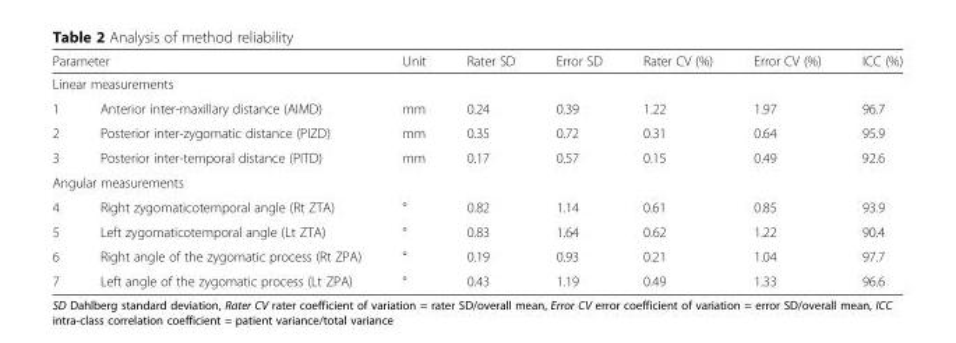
<table><thead><tr><td colspan="2">Parameter</td><td>Unit</td><td>Rater SD</td><td>Error SD</td><td>Rater CV (%)</td><td>Error CV (%)</td><td>ICC (%)</td></tr><tr><td colspan="8">Linear measurements</td></tr><tr><td>1</td><td>Anterior inter-maxillary distance (AIMD)</td><td>mm</td><td>0.24</td><td>0.39</td><td>1.22</td><td>1.97</td><td>96.7</td></tr></thead><tbody><tr><td>2</td><td>Posterior inter-zygomatic distance (PIZD)</td><td>mm</td><td>0.35</td><td>0.72</td><td>0.31</td><td>0.64</td><td>95.9</td></tr><tr><td>3</td><td>Posterior inter-temporal distance (PITD)</td><td>mm</td><td>0.17</td><td>0.57</td><td>0.15</td><td>0.49</td><td>92.6</td></tr><tr><td colspan="8">Angular measurements</td></tr><tr><td>4</td><td>Right zygomaticotemporal angle (Rt ZTA)</td><td>°</td><td>0.82</td><td>1.14</td><td>0.61</td><td>0.85</td><td>93.9</td></tr><tr><td>5</td><td>Left zygomaticotemporal angle (Lt ZTA)</td><td>°</td><td>0.83</td><td>1.64</td><td>0.62</td><td>1.22</td><td>90.4</td></tr><tr><td>6</td><td>Right angle of the zygomatic process (Rt ZPA)</td><td>°</td><td>0.19</td><td>0.93</td><td>0.21</td><td>1.04</td><td>97.7</td></tr><tr><td>7</td><td>Left angle of the zygomatic process (Lt ZPA)</td><td>°</td><td>0.43</td><td>1.19</td><td>0.49</td><td>1.33</td><td>96.6</td></tr></tbody></table>